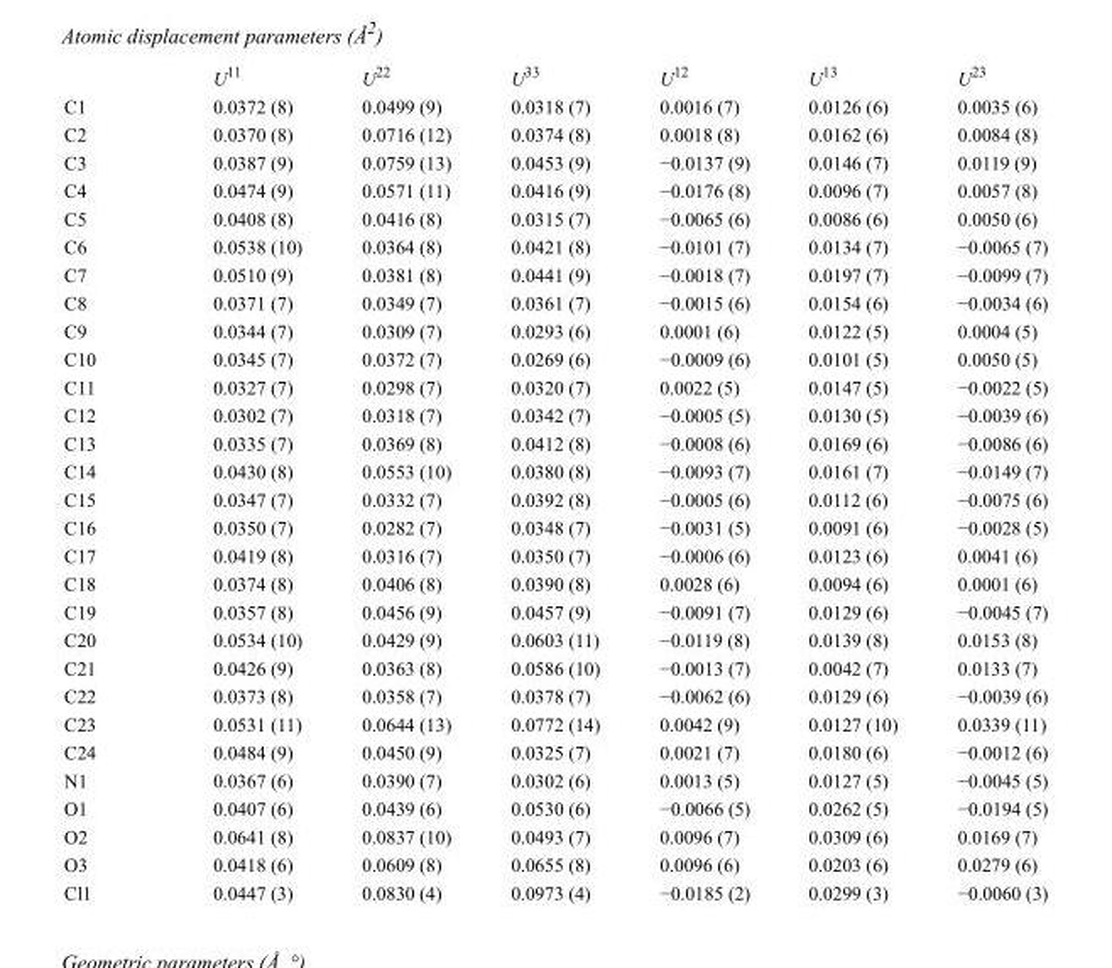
<table><thead><tr><td></td><td>U<sup>11</sup></td><td>U<sup>22</sup></td><td>U<sup>33</sup></td><td>U<sup>12</sup></td><td>U<sup>13</sup></td><td>U<sup>23</sup></td></tr></thead><tbody><tr><td>C1</td><td>0.0372 (8)</td><td>0.0499 (9)</td><td>0.0318 (7)</td><td>0.0016 (7)</td><td>0.0126 (6)</td><td>0.0035 (6)</td></tr><tr><td>C2</td><td>0.0370 (8)</td><td>0.0716 (12)</td><td>0.0374 (8)</td><td>0.0018 (8)</td><td>0.0162 (6)</td><td>0.0084 (8)</td></tr><tr><td>C3</td><td>0.0387 (9)</td><td>0.0759 (13)</td><td>0.0453 (9)</td><td>−0.0137 (9)</td><td>0.0146 (7)</td><td>0.0119 (9)</td></tr><tr><td>C4</td><td>0.0474 (9)</td><td>0.0571 (11)</td><td>0.0416 (9)</td><td>−0.0176 (8)</td><td>0.0096 (7)</td><td>0.0057 (8)</td></tr><tr><td>C5</td><td>0.0408 (8)</td><td>0.0416 (8)</td><td>0.0315 (7)</td><td>−0.0065 (6)</td><td>0.0086 (6)</td><td>0.0050 (6)</td></tr><tr><td>C6</td><td>0.0538 (10)</td><td>0.0364 (8)</td><td>0.0421 (8)</td><td>−0.0101 (7)</td><td>0.0134 (7)</td><td>−0.0065 (7)</td></tr><tr><td>C7</td><td>0.0510 (9)</td><td>0.0381 (8)</td><td>0.0441 (9)</td><td>−0.0018 (7)</td><td>0.0197 (7)</td><td>−0.0099 (7)</td></tr><tr><td>C8</td><td>0.0371 (7)</td><td>0.0349 (7)</td><td>0.0361 (7)</td><td>−0.0015 (6)</td><td>0.0154 (6)</td><td>−0.0034 (6)</td></tr><tr><td>C9</td><td>0.0344 (7)</td><td>0.0309 (7)</td><td>0.0293 (6)</td><td>0.0001 (6)</td><td>0.0122 (5)</td><td>0.0004 (5)</td></tr><tr><td>C10</td><td>0.0345 (7)</td><td>0.0372 (7)</td><td>0.0269 (6)</td><td>−0.0009 (6)</td><td>0.0101 (5)</td><td>0.0050 (5)</td></tr><tr><td>C11</td><td>0.0327 (7)</td><td>0.0298 (7)</td><td>0.0320 (7)</td><td>0.0022 (5)</td><td>0.0147 (5)</td><td>−0.0022 (5)</td></tr><tr><td>C12</td><td>0.0302 (7)</td><td>0.0318 (7)</td><td>0.0342 (7)</td><td>−0.0005 (5)</td><td>0.0130 (5)</td><td>−0.0039 (6)</td></tr><tr><td>C13</td><td>0.0335 (7)</td><td>0.0369 (8)</td><td>0.0412 (8)</td><td>−0.0008 (6)</td><td>0.0169 (6)</td><td>−0.0086 (6)</td></tr><tr><td>C14</td><td>0.0430 (8)</td><td>0.0553 (10)</td><td>0.0380 (8)</td><td>−0.0093 (7)</td><td>0.0161 (7)</td><td>−0.0149 (7)</td></tr><tr><td>C15</td><td>0.0347 (7)</td><td>0.0332 (7)</td><td>0.0392 (8)</td><td>−0.0005 (6)</td><td>0.0112 (6)</td><td>−0.0075 (6)</td></tr><tr><td>C16</td><td>0.0350 (7)</td><td>0.0282 (7)</td><td>0.0348 (7)</td><td>−0.0031 (5)</td><td>0.0091 (6)</td><td>−0.0028 (5)</td></tr><tr><td>C17</td><td>0.0419 (8)</td><td>0.0316 (7)</td><td>0.0350 (7)</td><td>−0.0006 (6)</td><td>0.0123 (6)</td><td>0.0041 (6)</td></tr><tr><td>C18</td><td>0.0374 (8)</td><td>0.0406 (8)</td><td>0.0390 (8)</td><td>0.0028 (6)</td><td>0.0094 (6)</td><td>0.0001 (6)</td></tr><tr><td>C19</td><td>0.0357 (8)</td><td>0.0456 (9)</td><td>0.0457 (9)</td><td>−0.0091 (7)</td><td>0.0129 (6)</td><td>−0.0045 (7)</td></tr><tr><td>C20</td><td>0.0534 (10)</td><td>0.0429 (9)</td><td>0.0603 (11)</td><td>−0.0119 (8)</td><td>0.0139 (8)</td><td>0.0153 (8)</td></tr><tr><td>C21</td><td>0.0426 (9)</td><td>0.0363 (8)</td><td>0.0586 (10)</td><td>−0.0013 (7)</td><td>0.0042 (7)</td><td>0.0133 (7)</td></tr><tr><td>C22</td><td>0.0373 (8)</td><td>0.0358 (7)</td><td>0.0378 (7)</td><td>−0.0062 (6)</td><td>0.0129 (6)</td><td>−0.0039 (6)</td></tr><tr><td>C23</td><td>0.0531 (11)</td><td>0.0644 (13)</td><td>0.0772 (14)</td><td>0.0042 (9)</td><td>0.0127 (10)</td><td>0.0339 (11)</td></tr><tr><td>C24</td><td>0.0484 (9)</td><td>0.0450 (9)</td><td>0.0325 (7)</td><td>0.0021 (7)</td><td>0.0180 (6)</td><td>−0.0012 (6)</td></tr><tr><td>N1</td><td>0.0367 (6)</td><td>0.0390 (7)</td><td>0.0302 (6)</td><td>0.0013 (5)</td><td>0.0127 (5)</td><td>−0.0045 (5)</td></tr><tr><td>O1</td><td>0.0407 (6)</td><td>0.0439 (6)</td><td>0.0530 (6)</td><td>−0.0066 (5)</td><td>0.0262 (5)</td><td>−0.0194 (5)</td></tr><tr><td>O2</td><td>0.0641 (8)</td><td>0.0837 (10)</td><td>0.0493 (7)</td><td>0.0096 (7)</td><td>0.0309 (6)</td><td>0.0169 (7)</td></tr><tr><td>O3</td><td>0.0418 (6)</td><td>0.0609 (8)</td><td>0.0655 (8)</td><td>0.0096 (6)</td><td>0.0203 (6)</td><td>0.0279 (6)</td></tr><tr><td>Cl1</td><td>0.0447 (3)</td><td>0.0830 (4)</td><td>0.0973 (4)</td><td>−0.0185 (2)</td><td>0.0299 (3)</td><td>−0.0060 (3)</td></tr></tbody></table>